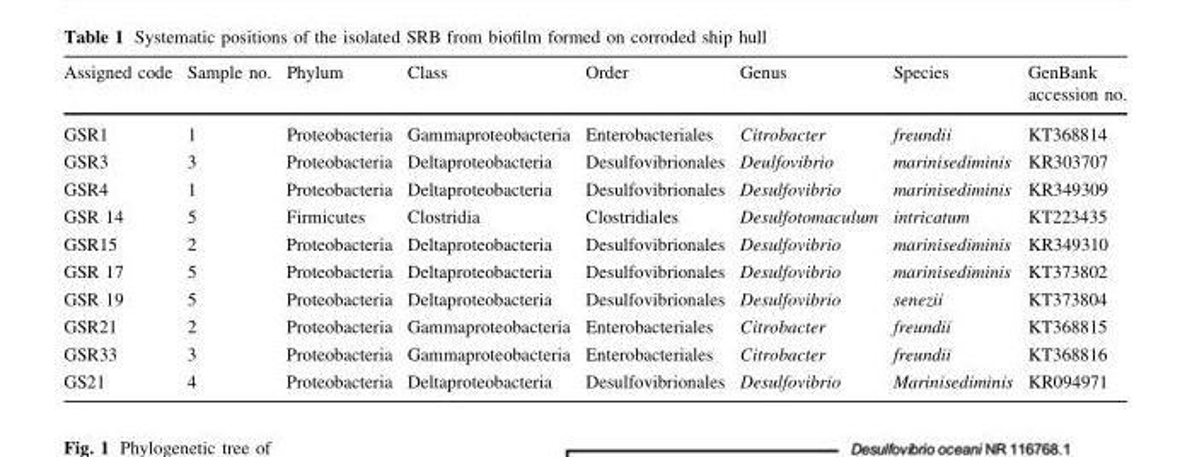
<table><thead><tr><td>Assigned code</td><td>Sample no.</td><td>Phylum</td><td>Class</td><td>Order</td><td>Genus</td><td>Species</td><td>GenBank accession no.</td></tr></thead><tbody><tr><td>GSR1</td><td>1</td><td>Proteobacteria</td><td>Gammaproteobacteria</td><td>Enterobacteriales</td><td>Citrobacter</td><td>freundii</td><td>KT368814</td></tr><tr><td>GSR3</td><td>3</td><td>Proteobacteria</td><td>Deltaproteobacteria</td><td>Desulfovibrionales</td><td>Deulfovibrio</td><td>marinisediminis</td><td>KR303707</td></tr><tr><td>GSR4</td><td>1</td><td>Proteobacteria</td><td>Deltaproteobacteria</td><td>Desulfovibrionales</td><td>Desulfovibrio</td><td>marinisediminis</td><td>KR349309</td></tr><tr><td>GSR 14</td><td>5</td><td>Firmicutes</td><td>Clostridia</td><td>Clostridiales</td><td>Desulfotomaculum</td><td>intricatum</td><td>KT223435</td></tr><tr><td>GSR15</td><td>2</td><td>Proteobacteria</td><td>Deltaproteobacteria</td><td>Desulfovibrionales</td><td>Desulfovibrio</td><td>marinisediminis</td><td>KR349310</td></tr><tr><td>GSR 17</td><td>5</td><td>Proteobacteria</td><td>Deltaproteobacteria</td><td>Desulfovibrionales</td><td>Desulfovibrio</td><td>marinisediminis</td><td>KT373802</td></tr><tr><td>GSR 19</td><td>5</td><td>Proteobacteria</td><td>Deltaproteobacteria</td><td>Desulfovibrionales</td><td>Desulfovibrio</td><td>senezii</td><td>KT373804</td></tr><tr><td>GSR21</td><td>2</td><td>Proteobacteria</td><td>Gammaproteobacteria</td><td>Enterobacteriales</td><td>Citrobacter</td><td>freundii</td><td>KT368815</td></tr><tr><td>GSR33</td><td>3</td><td>Proteobacteria</td><td>Gammaproteobacteria</td><td>Enterobacteriales</td><td>Citrobacter</td><td>freundii</td><td>KT368816</td></tr><tr><td>GS21</td><td>4</td><td>Proteobacteria</td><td>Deltaproteobacteria</td><td>Desulfovibrionales</td><td>Desulfovibrio</td><td>Marinisediminis</td><td>KR094971</td></tr></tbody></table>